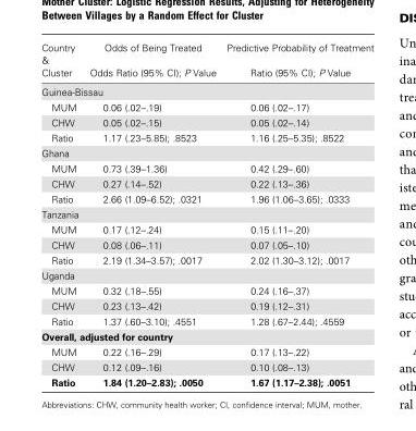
<table><thead><tr><td rowspan="2">Country &amp; Cluster</td><td rowspan="2">Odds of Being Treated Odds Ratio (95% CI); P Value</td><td rowspan="2">Predictive Probability of Treatment Ratio (95% CI); P Value</td></tr><tr></tr></thead><tbody><tr><td colspan="3">Guinea-Bissau</td></tr><tr><td>MUM</td><td>0.06 (.02–.19)</td><td>0.06 (.02–.17)</td></tr><tr><td>CHW</td><td>0.05 (.02–.15)</td><td>0.05 (.02–.14)</td></tr><tr><td>Ratio</td><td>1.17 (.23–5.85); .8523</td><td>1.16 (.25–5.35); .8522</td></tr><tr><td colspan="3">Ghana</td></tr><tr><td>MUM</td><td>0.73 (.39–1.36)</td><td>0.42 (.29–.60)</td></tr><tr><td>CHW</td><td>0.27 (.14–.52)</td><td>0.22 (.13–.36)</td></tr><tr><td>Ratio</td><td>2.66 (1.09–6.52); .0321</td><td>1.96 (1.06–3.65); .0333</td></tr><tr><td colspan="3">Tanzania</td></tr><tr><td>MUM</td><td>0.17 (.12–.24)</td><td>0.15 (.11–.20)</td></tr><tr><td>CHW</td><td>0.08 (.06–.11)</td><td>0.07 (.05–.10)</td></tr><tr><td>Ratio</td><td>2.19 (1.34–3.57); .0017</td><td>2.02 (1.30–3.12); .0017</td></tr><tr><td colspan="3">Uganda</td></tr><tr><td>MUM</td><td>0.32 (.18–.55)</td><td>0.24 (.16–.37)</td></tr><tr><td>CHW</td><td>0.23 (.13–.42)</td><td>0.19 (.12–.31)</td></tr><tr><td>Ratio</td><td>1.37 (.60–3.10); .4551</td><td>1.28 (.67–2.44); .4559</td></tr><tr><td colspan="3">Overall, adjusted for country</td></tr><tr><td>MUM</td><td>0.22 (.16–.29)</td><td>0.17 (.13–.22)</td></tr><tr><td>CHW</td><td>0.12 (.09–.16)</td><td>0.10 (.08–.13)</td></tr><tr><td>Ratio</td><td>1.84 (1.20–2.83); .0050</td><td>1.67 (1.17–2.38); .0051</td></tr></tbody></table>